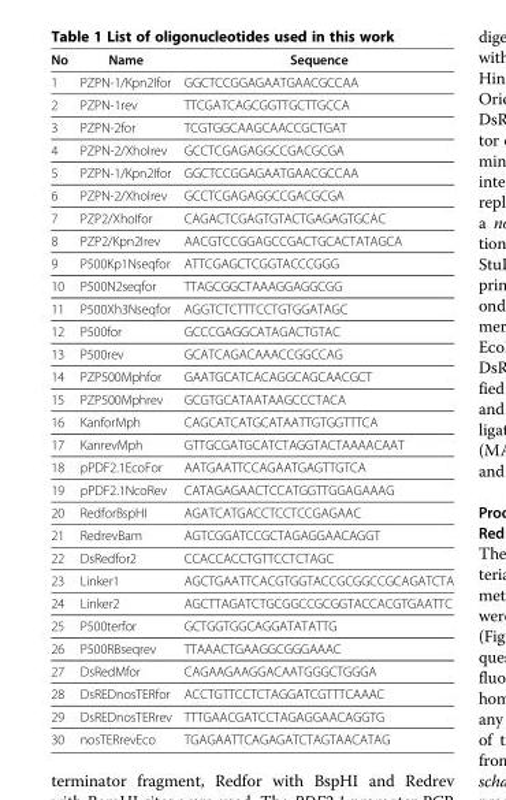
<table><thead><tr><td>No</td><td>Name</td><td>Sequence</td></tr></thead><tbody><tr><td>1</td><td>PZPN-1/Kpn2Ifor</td><td>GGCTCCGGAGAATGAACGCCAA</td></tr><tr><td>2</td><td>PZPN-1rev</td><td>TTCGATCAGCGGTTGCTTGCCA</td></tr><tr><td>3</td><td>PZPN-2for</td><td>TCGTGGCAAGCAACCGCTGAT</td></tr><tr><td>4</td><td>PZPN-2/XhoIrev</td><td>GCCTCGAGAGGCCGACGCGA</td></tr><tr><td>5</td><td>PZPN-1/Kpn2Ifor</td><td>GGCTCCGGAGAATGAACGCCAA</td></tr><tr><td>6</td><td>PZPN-2/XhoIrev</td><td>GCCTCGAGAGGCCGACGCGA</td></tr><tr><td>7</td><td>PZP2/XhoIfor</td><td>CAGACTCGAGTGTACTGAGAGTGCAC</td></tr><tr><td>8</td><td>PZP2/Kpn2Irev</td><td>AACGTCCGGAGCCGACTGCACTATAGCA</td></tr><tr><td>9</td><td>P500Kp1Nseqfor</td><td>ATTCGAGCTCGGTACCCGGG</td></tr><tr><td>10</td><td>P500N2seqfor</td><td>TTAGCGGCTAAAGGAGGCGG</td></tr><tr><td>11</td><td>P500Xh3Nseqfor</td><td>AGGTCTCTTTCCTGTGGATAGC</td></tr><tr><td>12</td><td>P500for</td><td>GCCCGAGGCATAGACTGTAC</td></tr><tr><td>13</td><td>P500rev</td><td>GCATCAGACAAACCGGCCAG</td></tr><tr><td>14</td><td>PZP500Mphfor</td><td>GAATGCATCACAGGCAGCAACGCT</td></tr><tr><td>15</td><td>PZP500Mphrev</td><td>GCGTGCATAATAAGCCCTACA</td></tr><tr><td>16</td><td>KanforMph</td><td>CAGCATCATGCATAATTGTGGTTTCA</td></tr><tr><td>17</td><td>KanrevMph</td><td>GTTGCGATGCATCTAGGTACTAAAACAAT</td></tr><tr><td>18</td><td>pPDF2.1EcoFor</td><td>AATGAATTCCAGAATGAGTTGTCA</td></tr><tr><td>19</td><td>pPDF2.1NcoRev</td><td>CATAGAGAACTCCATGGTTGGAGAAAG</td></tr><tr><td>20</td><td>RedforBspHI</td><td>AGATCATGACCTCCTCCGAGAAC</td></tr><tr><td>21</td><td>RedrevBam</td><td>AGTCGGATCCGCTAGAGGAACAGGT</td></tr><tr><td>22</td><td>DsRedfor2</td><td>CCACCACCTGTTCCTCTAGC</td></tr><tr><td>23</td><td>Linker1</td><td>AGCTGAATTCACGTGGTACCGCGGCCGCAGATCTA</td></tr><tr><td>24</td><td>Linker2</td><td>AGCTTAGATCTGCGGCCGCGGTACCACGTGAATTC</td></tr><tr><td>25</td><td>P500terfor</td><td>GCTGGTGGCAGGATATATTG</td></tr><tr><td>26</td><td>P500RBseqrev</td><td>TTAAACTGAAGGCGGGAAAC</td></tr><tr><td>27</td><td>DsRedMfor</td><td>CAGAAGAAGGACAATGGGCTGGGA</td></tr><tr><td>28</td><td>DsREDnosTERfor</td><td>ACCTGTTCCTCTAGGATCGTTTCAAAC</td></tr><tr><td>29</td><td>DsREDnosTERrev</td><td>TTTGAACGATCCTAGAGGAACAGGTG</td></tr><tr><td>30</td><td>nosTERrevEco</td><td>TGAGAATTCAGAGATCTAGTAACATAG</td></tr></tbody></table>